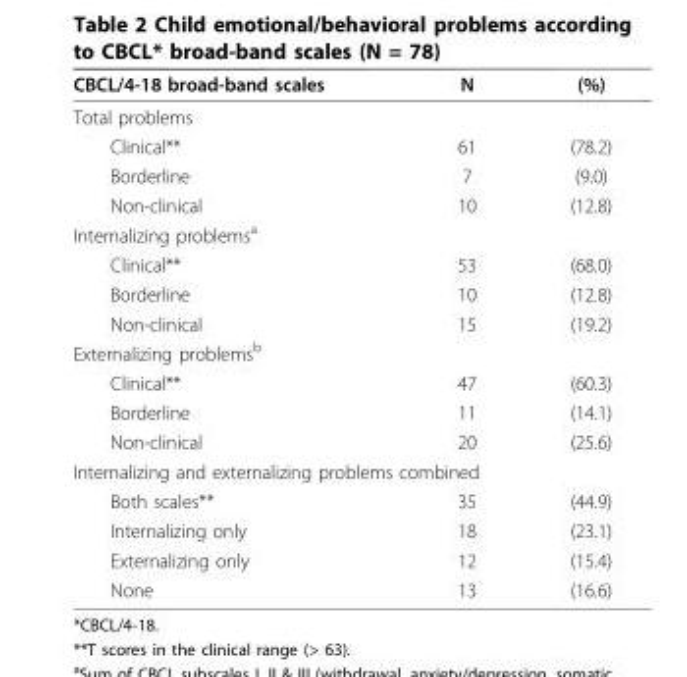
<table><thead><tr><td>CBCL/4-18 broad-band scales</td><td>N</td><td>(%)</td></tr></thead><tbody><tr><td colspan="3">Total problems</td></tr><tr><td>Clinical**</td><td>61</td><td>(78.2)</td></tr><tr><td>Borderline</td><td>7</td><td>(9.0)</td></tr><tr><td>Non-clinical</td><td>10</td><td>(12.8)</td></tr><tr><td colspan="3">Internalizing problems<sup>a</sup></td></tr><tr><td>Clinical**</td><td>53</td><td>(68.0)</td></tr><tr><td>Borderline</td><td>10</td><td>(12.8)</td></tr><tr><td>Non-clinical</td><td>15</td><td>(19.2)</td></tr><tr><td colspan="3">Externalizing problems<sup>b</sup></td></tr><tr><td>Clinical**</td><td>47</td><td>(60.3)</td></tr><tr><td>Borderline</td><td>11</td><td>(14.1)</td></tr><tr><td>Non-clinical</td><td>20</td><td>(25.6)</td></tr><tr><td colspan="3">Internalizing and externalizing problems combined</td></tr><tr><td>Both scales**</td><td>35</td><td>(44.9)</td></tr><tr><td>Internalizing only</td><td>18</td><td>(23.1)</td></tr><tr><td>Externalizing only</td><td>12</td><td>(15.4)</td></tr><tr><td>None</td><td>13</td><td>(16.6)</td></tr></tbody></table>